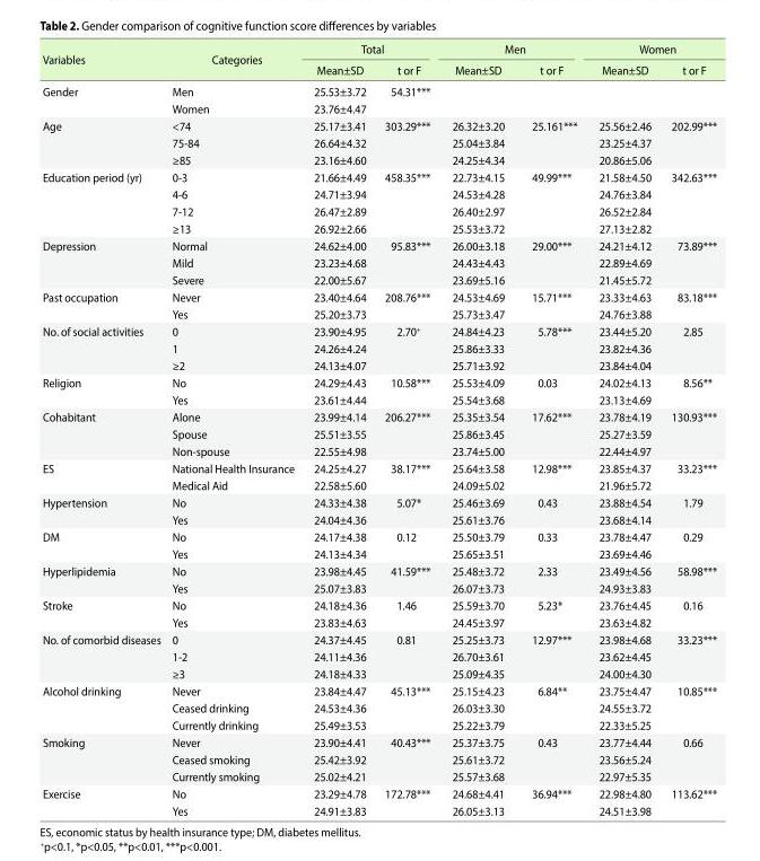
<table><thead><tr><td rowspan="2">Variables</td><td rowspan="2">Categories</td><td colspan="2">Total</td><td colspan="2">Men</td><td colspan="2">Women</td></tr><tr><td>Mean±SD</td><td>t or F</td><td>Mean±SD</td><td>t or F</td><td>Mean±SD</td><td>t or F</td></tr></thead><tbody><tr><td rowspan="2">Gender</td><td>Men</td><td>25.53±3.72</td><td>54.31***</td><td></td><td></td><td></td><td></td></tr><tr><td>Women</td><td>23.76±4.47</td><td></td><td></td><td></td><td></td><td></td></tr><tr><td rowspan="3">Age</td><td>&lt;74</td><td>25.17±3.41</td><td>303.29***</td><td>26.32±3.20</td><td>25.161***</td><td>25.56±2.46</td><td>202.99***</td></tr><tr><td>75-84</td><td>26.64±4.32</td><td></td><td>25.04±3.84</td><td></td><td>23.25±4.37</td><td></td></tr><tr><td>≥85</td><td>23.16±4.60</td><td></td><td>24.25±4.34</td><td></td><td>20.86±5.06</td><td></td></tr><tr><td rowspan="4">Education period (yr)</td><td>0-3</td><td>21.66±4.49</td><td>458.35***</td><td>22.73±4.15</td><td>49.99***</td><td>21.58±4.50</td><td>342.63***</td></tr><tr><td>4-6</td><td>24.71±3.94</td><td></td><td>24.53±4.28</td><td></td><td>24.76±3.84</td><td></td></tr><tr><td>7-12</td><td>26.47±2.89</td><td></td><td>26.40±2.97</td><td></td><td>26.52±2.84</td><td></td></tr><tr><td>≥13</td><td>26.92±2.66</td><td></td><td>25.53±3.72</td><td></td><td>27.13±2.82</td><td></td></tr><tr><td rowspan="3">Depression</td><td>Normal</td><td>24.62±4.00</td><td>95.83***</td><td>26.00±3.18</td><td>29.00***</td><td>24.21±4.12</td><td>73.89***</td></tr><tr><td>Mild</td><td>23.23±4.68</td><td></td><td>24.43±4.43</td><td></td><td>22.89±4.69</td><td></td></tr><tr><td>Severe</td><td>22.00±5.67</td><td></td><td>23.69±5.16</td><td></td><td>21.45±5.72</td><td></td></tr><tr><td rowspan="2">Past occupation</td><td>Never</td><td>23.40±4.64</td><td>208.76***</td><td>24.53±4.69</td><td>15.71***</td><td>23.33±4.63</td><td>83.18***</td></tr><tr><td>Yes</td><td>25.20±3.73</td><td></td><td>25.73±3.47</td><td></td><td>24.76±3.88</td><td></td></tr><tr><td rowspan="3">No. of social activities</td><td>0</td><td>23.90±4.95</td><td>2.70<sup>+</sup></td><td>24.84±4.23</td><td>5.78***</td><td>23.44±5.20</td><td>2.85</td></tr><tr><td>1</td><td>24.26±4.24</td><td></td><td>25.86±3.33</td><td></td><td>23.82±4.36</td><td></td></tr><tr><td>≥2</td><td>24.13±4.07</td><td></td><td>25.71±3.92</td><td></td><td>23.84±4.04</td><td></td></tr><tr><td rowspan="2">Religion</td><td>No</td><td>24.29±4.43</td><td>10.58***</td><td>25.53±4.09</td><td>0.03</td><td>24.02±4.13</td><td>8.56**</td></tr><tr><td>Yes</td><td>23.61±4.44</td><td></td><td>25.54±3.68</td><td></td><td>23.13±4.69</td><td></td></tr><tr><td rowspan="3">Cohabitant</td><td>Alone</td><td>23.99±4.14</td><td>206.27***</td><td>25.35±3.54</td><td>17.62***</td><td>23.78±4.19</td><td>130.93***</td></tr><tr><td>Spouse</td><td>25.51±3.55</td><td></td><td>25.86±3.45</td><td></td><td>25.27±3.59</td><td></td></tr><tr><td>Non-spouse</td><td>22.55±4.98</td><td></td><td>23.74±5.00</td><td></td><td>22.44±4.97</td><td></td></tr><tr><td rowspan="2">ES</td><td>National Health Insurance</td><td>24.25±4.27</td><td>38.17***</td><td>25.64±3.58</td><td>12.98***</td><td>23.85±4.37</td><td>33.23***</td></tr><tr><td>Medical Aid</td><td>22.58±5.60</td><td></td><td>24.09±5.02</td><td></td><td>21.96±5.72</td><td></td></tr><tr><td rowspan="2">Hypertension</td><td>No</td><td>24.33±4.38</td><td>5.07*</td><td>25.46±3.69</td><td>0.43</td><td>23.88±4.54</td><td>1.79</td></tr><tr><td>Yes</td><td>24.04±4.36</td><td></td><td>25.61±3.76</td><td></td><td>23.68±4.14</td><td></td></tr><tr><td rowspan="2">DM</td><td>No</td><td>24.17±4.38</td><td>0.12</td><td>25.50±3.79</td><td>0.33</td><td>23.78±4.47</td><td>0.29</td></tr><tr><td>Yes</td><td>24.13±4.34</td><td></td><td>25.65±3.51</td><td></td><td>23.69±4.46</td><td></td></tr><tr><td rowspan="2">Hyperlipidemia</td><td>No</td><td>23.98±4.45</td><td>41.59***</td><td>25.48±3.72</td><td>2.33</td><td>23.49±4.56</td><td>58.98***</td></tr><tr><td>Yes</td><td>25.07±3.83</td><td></td><td>26.07±3.73</td><td></td><td>24.93±3.83</td><td></td></tr><tr><td rowspan="2">Stroke</td><td>No</td><td>24.18±4.36</td><td>1.46</td><td>25.59±3.70</td><td>5.23*</td><td>23.76±4.45</td><td>0.16</td></tr><tr><td>Yes</td><td>23.83±4.63</td><td></td><td>24.45±3.97</td><td></td><td>23.63±4.82</td><td></td></tr><tr><td rowspan="3">No. of comorbid diseases</td><td>0</td><td>24.37±4.45</td><td>0.81</td><td>25.25±3.73</td><td>12.97***</td><td>23.98±4.68</td><td>33.23***</td></tr><tr><td>1-2</td><td>24.11±4.36</td><td></td><td>26.70±3.61</td><td></td><td>23.62±4.45</td><td></td></tr><tr><td>≥3</td><td>24.18±4.33</td><td></td><td>25.09±4.35</td><td></td><td>24.00±4.30</td><td></td></tr><tr><td rowspan="3">Alcohol drinking</td><td>Never</td><td>23.84±4.47</td><td>45.13***</td><td>25.15±4.23</td><td>6.84**</td><td>23.75±4.47</td><td>10.85***</td></tr><tr><td>Ceased drinking</td><td>24.53±4.36</td><td></td><td>26.03±3.30</td><td></td><td>24.55±3.72</td><td></td></tr><tr><td>Currently drinking</td><td>25.49±3.53</td><td></td><td>25.22±3.79</td><td></td><td>22.33±5.25</td><td></td></tr><tr><td rowspan="3">Smoking</td><td>Never</td><td>23.90±4.41</td><td>40.43***</td><td>25.37±3.75</td><td>0.43</td><td>23.77±4.44</td><td>0.66</td></tr><tr><td>Ceased smoking</td><td>25.42±3.92</td><td></td><td>25.61±3.72</td><td></td><td>23.56±5.24</td><td></td></tr><tr><td>Currently smoking</td><td>25.02±4.21</td><td></td><td>25.57±3.68</td><td></td><td>22.97±5.35</td><td></td></tr><tr><td rowspan="2">Exercise</td><td>No</td><td>23.29±4.78</td><td>172.78***</td><td>24.68±4.41</td><td>36.94***</td><td>22.98±4.80</td><td>113.62***</td></tr><tr><td>Yes</td><td>24.91±3.83</td><td></td><td>26.05±3.13</td><td></td><td>24.51±3.98</td><td></td></tr></tbody></table>